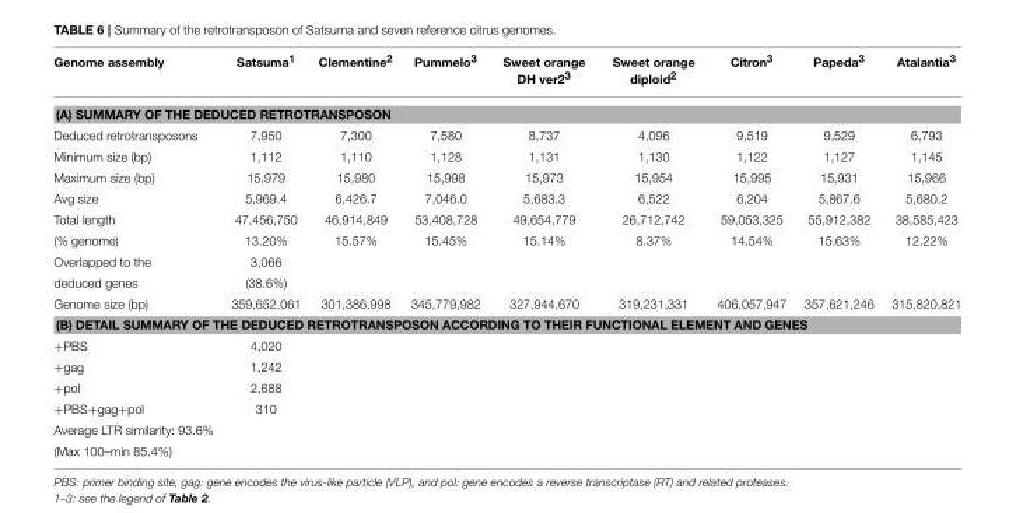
<table><thead><tr><td>Genome assembly</td><td>Satsuma<sup>1</sup></td><td>Clementine<sup>2</sup></td><td>Pummelo<sup>3</sup></td><td>Sweet orange DH ver2<sup>3</sup></td><td>Sweet orange diploid<sup>2</sup></td><td>Citron<sup>3</sup></td><td>Papeda<sup>3</sup></td><td>Atalantia<sup>3</sup></td></tr></thead><tbody><tr><td colspan="9">(A) SUMMARY OF THE DEDUCED RETROTRANSPOSON</td></tr><tr><td>Deduced retrotransposons</td><td>7,950</td><td>7,300</td><td>7,580</td><td>8,737</td><td>4,096</td><td>9,519</td><td>9,529</td><td>6,793</td></tr><tr><td>Minimum size (bp)</td><td>1,112</td><td>1,110</td><td>1,128</td><td>1,131</td><td>1,130</td><td>1,122</td><td>1,127</td><td>1,145</td></tr><tr><td>Maximum size (bp)</td><td>15,979</td><td>15,980</td><td>15,998</td><td>15,973</td><td>15,954</td><td>15,995</td><td>15,931</td><td>15,966</td></tr><tr><td>Avg size</td><td>5,969.4</td><td>6,426.7</td><td>7,046.0</td><td>5,683.3</td><td>6,522</td><td>6,204</td><td>5,867.6</td><td>5,680.2</td></tr><tr><td>Total length</td><td>47,456,750</td><td>46,914,849</td><td>53,408,728</td><td>49,654,779</td><td>26,712,742</td><td>59,053,325</td><td>55,912,382</td><td>38,585,423</td></tr><tr><td>(% genome)</td><td>13.20%</td><td>15.57%</td><td>15.45%</td><td>15.14%</td><td>8.37%</td><td>14.54%</td><td>15.63%</td><td>12.22%</td></tr><tr><td>Overlapped to the</td><td>3,066</td><td></td><td></td><td></td><td></td><td></td><td></td><td></td></tr><tr><td>deduced genes</td><td>(38.6%)</td><td></td><td></td><td></td><td></td><td></td><td></td><td></td></tr><tr><td>Genome size (bp)</td><td>359,652,061</td><td>301,386,998</td><td>345,779,982</td><td>327,944,670</td><td>319,231,331</td><td>406,057,947</td><td>357,621,246</td><td>315,820,821</td></tr><tr><td colspan="9">(B) DETAIL SUMMARY OF THE DEDUCED RETROTRANSPOSON ACCORDING TO THEIR FUNCTIONAL ELEMENT AND GENES</td></tr><tr><td>+PBS</td><td>4,020</td><td></td><td></td><td></td><td></td><td></td><td></td><td></td></tr><tr><td>+gag</td><td>1,242</td><td></td><td></td><td></td><td></td><td></td><td></td><td></td></tr><tr><td>+pol</td><td>2,688</td><td></td><td></td><td></td><td></td><td></td><td></td><td></td></tr><tr><td>+PBS+gag+pol</td><td>310</td><td></td><td></td><td></td><td></td><td></td><td></td><td></td></tr><tr><td colspan="9">Average LTR similarity: 93.6%</td></tr><tr><td>(Max 100–min 85.4%)</td><td></td><td></td><td></td><td></td><td></td><td></td><td></td><td></td></tr></tbody></table>